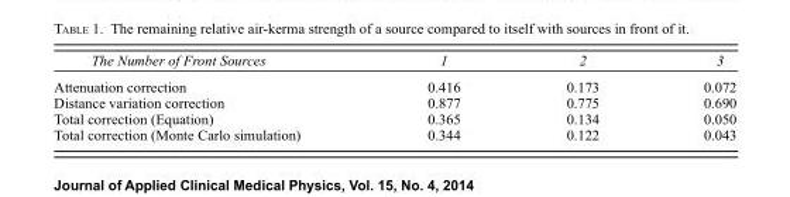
<table><thead><tr><td>The Number of Front Sources</td><td>1</td><td>2</td><td>3</td></tr></thead><tbody><tr><td>Attenuation correction</td><td>0.416</td><td>0.173</td><td>0.072</td></tr><tr><td>Distance variation correction</td><td>0.877</td><td>0.775</td><td>0.690</td></tr><tr><td>Total correction (Equation)</td><td>0.365</td><td>0.134</td><td>0.050</td></tr><tr><td>Total correction (Monte Carlo simulation)</td><td>0.344</td><td>0.122</td><td>0.043</td></tr></tbody></table>